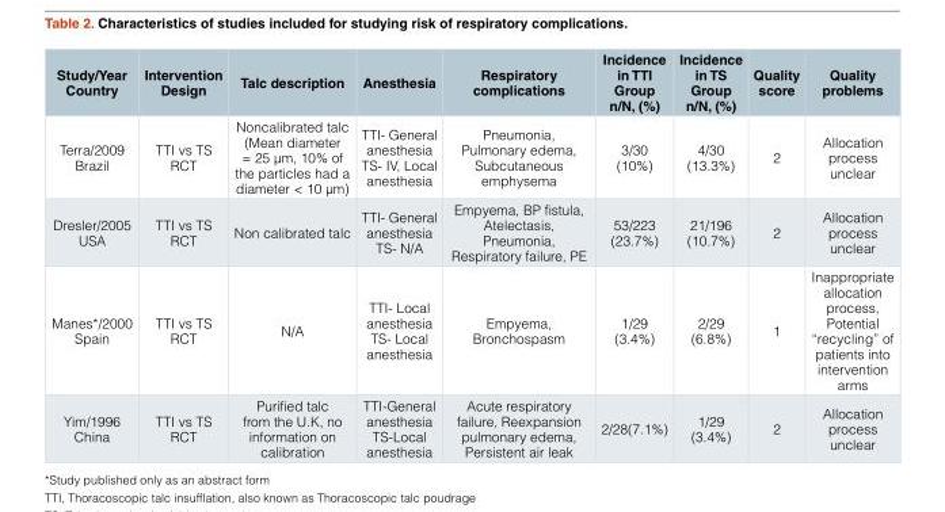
<table><thead><tr><td>Study/Year Country</td><td>Intervention Design</td><td>Talc description</td><td>Anesthesia</td><td>Respiratory complications</td><td>Incidence in TTI Group n/N, (%)</td><td>Incidence in TS Group n/N, (%)</td><td>Quality score</td><td>Quality problems</td></tr></thead><tbody><tr><td>Terra/2009 Brazil</td><td>TTI vs TS RCT</td><td>Noncalibrated talc (Mean diameter = 25 μm, 10% of the particles had a diameter &lt; 10 μm)</td><td>TTI- General anesthesia TS- IV, Local anesthesia</td><td>Pneumonia, Pulmonary edema, Subcutaneous emphysema</td><td>3/30 (10%)</td><td>4/30 (13.3%)</td><td>2</td><td>Allocation process unclear</td></tr><tr><td>Dresler/2005 USA</td><td>TTI vs TS RCT</td><td>Non calibrated talc</td><td>TTI- General anesthesia TS- N/A</td><td>Empyema, BP fistula, Atelectasis, Pneumonia, Respiratory failure, PE</td><td>53/223 (23.7%)</td><td>21/196 (10.7%)</td><td>2</td><td>Allocation process unclear</td></tr><tr><td>Manes*/2000 Spain</td><td>TTI vs TS RCT</td><td>N/A</td><td>TTI- Local anesthesia TS- Local anesthesia</td><td>Empyema, Bronchospasm</td><td>1/29 (3.4%)</td><td>2/29 (6.8%)</td><td>1</td><td>Inappropriate allocation process, Potential “recycling” of patients into intervention arms</td></tr><tr><td>Yim/1996 China</td><td>TTI vs TS RCT</td><td>Purified talc from the U.K, no information on calibration</td><td>TTI-General anesthesia TS-Local anesthesia</td><td>Acute respiratory failure, Reexpansion pulmonary edema, Persistent air leak</td><td>2/28(7.1%)</td><td>1/29 (3.4%)</td><td>2</td><td>Allocation process unclear</td></tr></tbody></table>